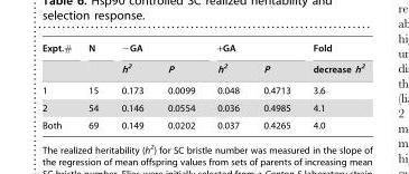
<table><thead><tr><td rowspan="2">Expt.#</td><td rowspan="2">N</td><td colspan="2">−GA</td><td colspan="2">+GA</td><td rowspan="2">Fold decrease h<sup>2</sup></td></tr><tr><td>h<sup>2</sup></td><td>P</td><td>h<sup>2</sup></td><td>P</td></tr></thead><tbody><tr><td>1</td><td>15</td><td>0.173</td><td>0.0099</td><td>0.048</td><td>0.4713</td><td>3.6</td></tr><tr><td>2</td><td>54</td><td>0.146</td><td>0.0554</td><td>0.036</td><td>0.4985</td><td>4.1</td></tr><tr><td>Both</td><td>69</td><td>0.149</td><td>0.0202</td><td>0.037</td><td>0.4265</td><td>4.0</td></tr></tbody></table>